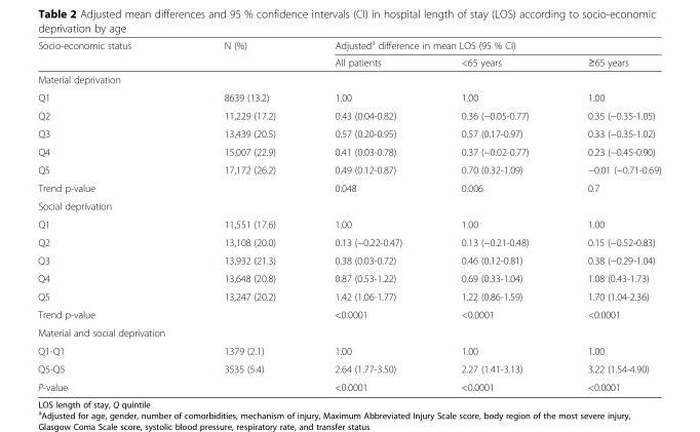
<table><thead><tr><td rowspan="2">Socio-economic status</td><td rowspan="2">N (%)</td><td colspan="3">Adjusted<sup>a</sup> difference in mean LOS (95 % CI)</td></tr><tr><td>All patients</td><td>&lt;65 years</td><td>≥65 years</td></tr></thead><tbody><tr><td colspan="5">Material deprivation</td></tr><tr><td>Q1</td><td>8639 (13.2)</td><td>1.00</td><td>1.00</td><td>1.00</td></tr><tr><td>Q2</td><td>11,229 (17.2)</td><td>0.43 (0.04-0.82)</td><td>0.36 (−0.05-0.77)</td><td>0.35 (−0.35-1.05)</td></tr><tr><td>Q3</td><td>13,439 (20.5)</td><td>0.57 (0.20-0.95)</td><td>0.57 (0.17-0.97)</td><td>0.33 (−0.35-1.02)</td></tr><tr><td>Q4</td><td>15,007 (22.9)</td><td>0.41 (0.03-0.78)</td><td>0.37 (−0.02-0.77)</td><td>0.23 (−0.45-0.90)</td></tr><tr><td>Q5</td><td>17,172 (26.2)</td><td>0.49 (0.12-0.87)</td><td>0.70 (0.32-1.09)</td><td>−0.01 (−0.71-0.69)</td></tr><tr><td>Trend p-value</td><td></td><td>0.048</td><td>0.006</td><td>0.7</td></tr><tr><td colspan="5">Social deprivation</td></tr><tr><td>Q1</td><td>11,551 (17.6)</td><td>1.00</td><td>1.00</td><td>1.00</td></tr><tr><td>Q2</td><td>13,108 (20.0)</td><td>0.13 (−0.22-0.47)</td><td>0.13 (−0.21-0.48)</td><td>0.15 (−0.52-0.83)</td></tr><tr><td>Q3</td><td>13,932 (21.3)</td><td>0.38 (0.03-0.72)</td><td>0.46 (0.12-0.81)</td><td>0.38 (−0.29-1.04)</td></tr><tr><td>Q4</td><td>13,648 (20.8)</td><td>0.87 (0.53-1.22)</td><td>0.69 (0.33-1.04)</td><td>1.08 (0.43-1.73)</td></tr><tr><td>Q5</td><td>13,247 (20.2)</td><td>1.42 (1.06-1.77)</td><td>1.22 (0.86-1.59)</td><td>1.70 (1.04-2.36)</td></tr><tr><td>Trend p-value</td><td></td><td>&lt;0.0001</td><td>&lt;0.0001</td><td>&lt;0.0001</td></tr><tr><td colspan="5">Material and social deprivation</td></tr><tr><td>Q1-Q1</td><td>1379 (2.1)</td><td>1.00</td><td>1.00</td><td>1.00</td></tr><tr><td>Q5-Q5</td><td>3535 (5.4)</td><td>2.64 (1.77-3.50)</td><td>2.27 (1.41-3.13)</td><td>3.22 (1.54-4.90)</td></tr><tr><td>P-value</td><td></td><td>&lt;0.0001</td><td>&lt;0.0001</td><td>&lt;0.0001</td></tr></tbody></table>